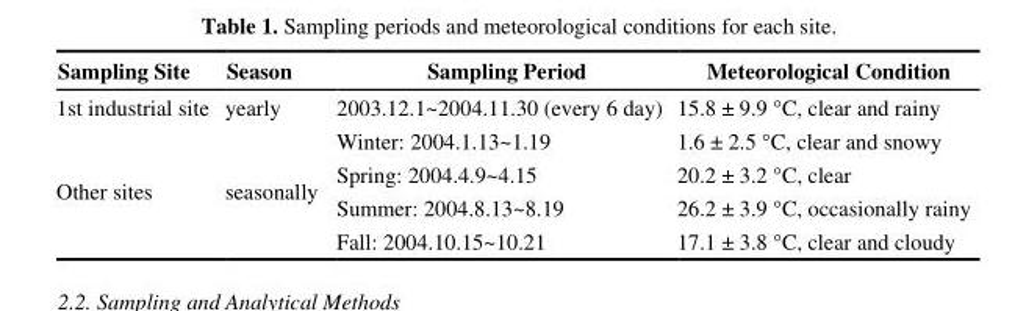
<table><thead><tr><td>Sampling Site</td><td>Season</td><td>Sampling Period</td><td>Meteorological Condition</td></tr></thead><tbody><tr><td>1st industrial site</td><td>yearly</td><td>2003.12.1~2004.11.30 (every 6 day)</td><td>15.8 ± 9.9 °C, clear and rainy</td></tr><tr><td rowspan="4">Other sites</td><td rowspan="4">seasonally</td><td>Winter: 2004.1.13~1.19</td><td>1.6 ± 2.5 °C, clear and snowy</td></tr><tr><td>Spring: 2004.4.9~4.15</td><td>20.2 ± 3.2 °C, clear</td></tr><tr><td>Summer: 2004.8.13~8.19</td><td>26.2 ± 3.9 °C, occasionally rainy</td></tr><tr><td>Fall: 2004.10.15~10.21</td><td>17.1 ± 3.8 °C, clear and cloudy</td></tr></tbody></table>